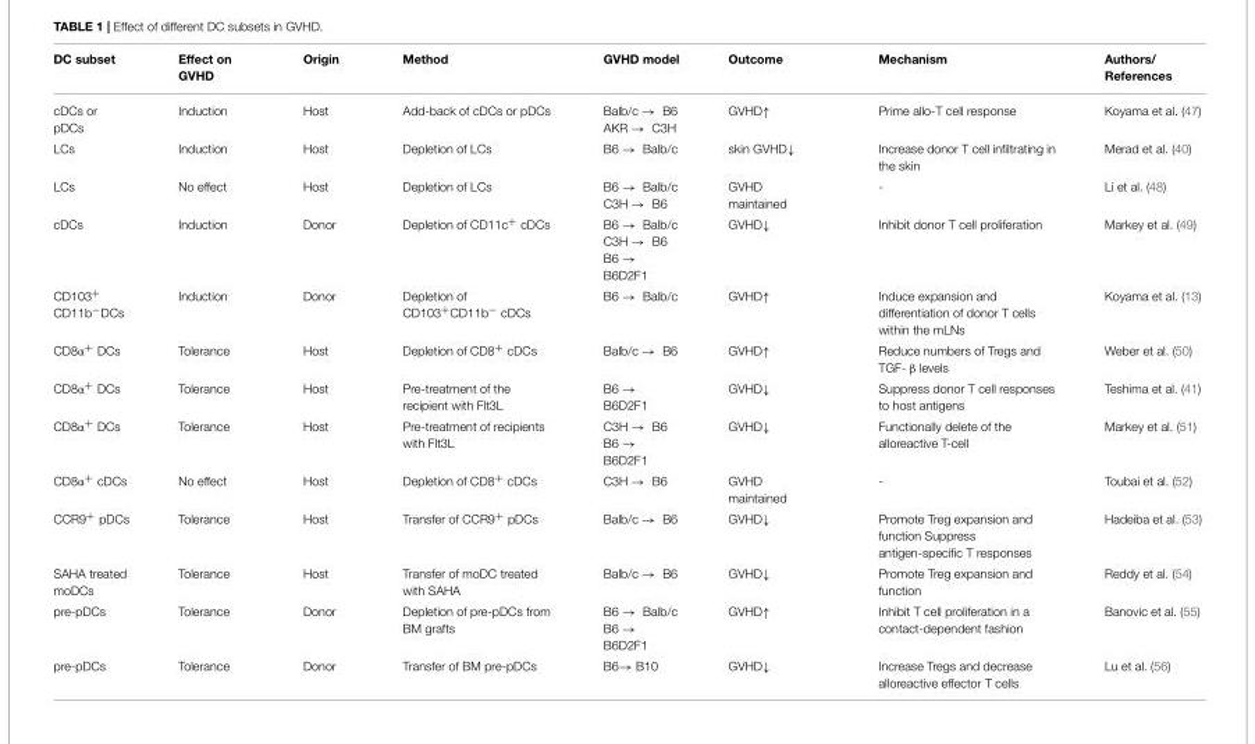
<table><thead><tr><td>DC subset</td><td>Effect on GVHD</td><td>Origin</td><td>Method</td><td>GVHD model</td><td>Outcome</td><td>Mechanism</td><td>Authors/ References</td></tr></thead><tbody><tr><td>cDCs or pDCs</td><td>Induction</td><td>Host</td><td>Add-back of cDCs or pDCs</td><td>Balb/c → B6 AKR → C3H</td><td>GVHD↑</td><td>Prime allo-T cell response</td><td>Koyama et al. (47)</td></tr><tr><td>LCs</td><td>Induction</td><td>Host</td><td>Depletion of LCs</td><td>B6 → Balb/c</td><td>skin GVHD↓</td><td>Increase donor T cell infiltrating in the skin</td><td>Merad et al. (40)</td></tr><tr><td>LCs</td><td>No effect</td><td>Host</td><td>Depletion of LCs</td><td>B6 → Balb/c C3H → B6</td><td>GVHD maintained</td><td>-</td><td>Li et al. (48)</td></tr><tr><td>cDCs</td><td>Induction</td><td>Donor</td><td>Depletion of CD11c<sup>+</sup> cDCs</td><td>B6 → Balb/c C3H → B6 B6 → B6D2F1</td><td>GVHD↓</td><td>Inhibit donor T cell proliferation</td><td>Markey et al. (49)</td></tr><tr><td>CD103<sup>+</sup> CD11b<sup>−</sup>DCs</td><td>Induction</td><td>Donor</td><td>Depletion of CD103<sup>+</sup>CD11b<sup>−</sup> cDCs</td><td>B6 → Balb/c</td><td>GVHD↑</td><td>Induce expansion and differentiation of donor T cells within the mLNs</td><td>Koyama et al. (13)</td></tr><tr><td>CD8α<sup>+</sup> DCs</td><td>Tolerance</td><td>Host</td><td>Depletion of CD8<sup>+</sup> cDCs</td><td>Balb/c → B6</td><td>GVHD↑</td><td>Reduce numbers of Tregs and TGF- β levels</td><td>Weber et al. (50)</td></tr><tr><td>CD8α<sup>+</sup> DCs</td><td>Tolerance</td><td>Host</td><td>Pre-treatment of the recipient with Flt3L</td><td>B6 → B6D2F1</td><td>GVHD↓</td><td>Suppress donor T cell responses to host antigens</td><td>Teshima et al. (41)</td></tr><tr><td>CD8α<sup>+</sup> DCs</td><td>Tolerance</td><td>Host</td><td>Pre-treatment of recipients with Flt3L</td><td>C3H → B6 B6 → B6D2F1</td><td>GVHD↓</td><td>Functionally delete of the alloreactive T-cell</td><td>Markey et al. (51)</td></tr><tr><td>CD8α<sup>+</sup> cDCs</td><td>No effect</td><td>Host</td><td>Depletion of CD8<sup>+</sup> cDCs</td><td>C3H → B6</td><td>GVHD maintained</td><td>-</td><td>Toubai et al. (52)</td></tr><tr><td>CCR9<sup>+</sup> pDCs</td><td>Tolerance</td><td>Host</td><td>Transfer of CCR9<sup>+</sup> pDCs</td><td>Balb/c → B6</td><td>GVHD↓</td><td>Promote Treg expansion and function Suppress antigen-specific T responses</td><td>Hadeiba et al. (53)</td></tr><tr><td>SAHA treated moDCs</td><td>Tolerance</td><td>Host</td><td>Transfer of moDC treated with SAHA</td><td>Balb/c → B6</td><td>GVHD↓</td><td>Promote Treg expansion and function</td><td>Reddy et al. (54)</td></tr><tr><td>pre-pDCs</td><td>Tolerance</td><td>Donor</td><td>Depletion of pre-pDCs from BM grafts</td><td>B6 → Balb/c B6 → B6D2F1</td><td>GVHD↑</td><td>Inhibit T cell proliferation in a contact-dependent fashion</td><td>Banovic et al. (55)</td></tr><tr><td>pre-pDCs</td><td>Tolerance</td><td>Donor</td><td>Transfer of BM pre-pDCs</td><td>B6→ B10</td><td>GVHD↓</td><td>Increase Tregs and decrease alloreactive effector T cells</td><td>Lu et al. (56)</td></tr></tbody></table>